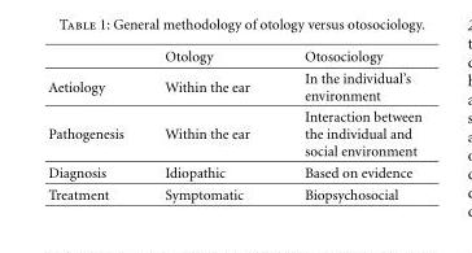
<table><thead><tr><td></td><td>Otology</td><td>Otosociology</td></tr></thead><tbody><tr><td>Aetiology</td><td>Within the ear</td><td>In the individual’s environment</td></tr><tr><td>Pathogenesis</td><td>Within the ear</td><td>Interaction between the individual and social environment</td></tr><tr><td>Diagnosis</td><td>Idiopathic</td><td>Based on evidence</td></tr><tr><td>Treatment</td><td>Symptomatic</td><td>Biopsychosocial</td></tr></tbody></table>